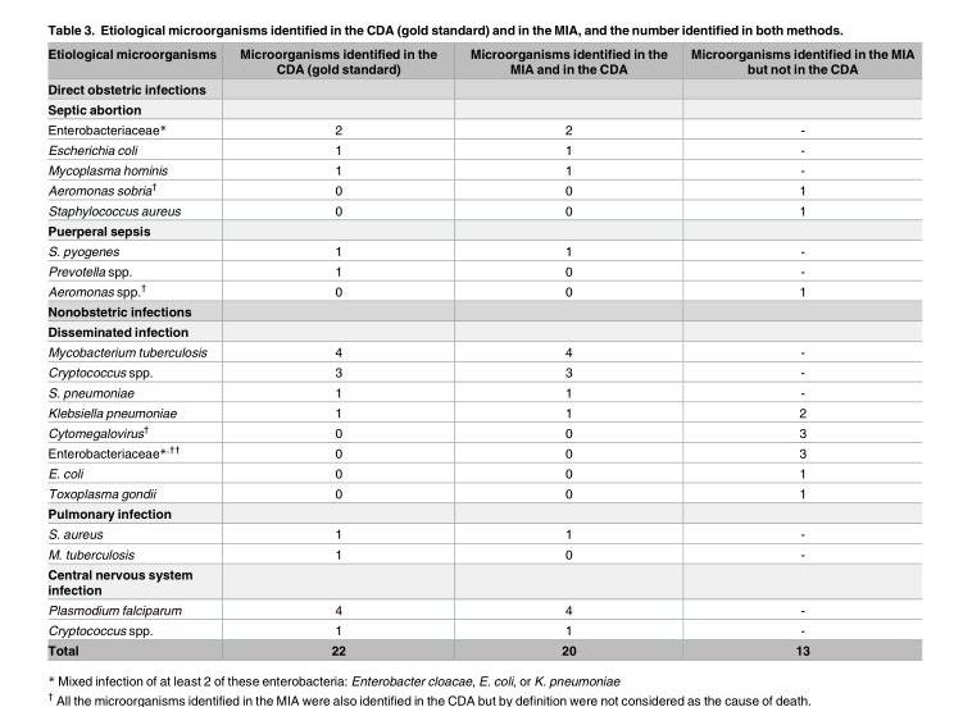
<table><thead><tr><td>Etiological microorganisms</td><td>Microorganisms identified in the CDA (gold standard)</td><td>Microorganisms identified in the MIA and in the CDA</td><td>Microorganisms identified in the MIA but not in the CDA</td></tr></thead><tbody><tr><td colspan="4">Direct obstetric infections</td></tr><tr><td colspan="4">Septic abortion</td></tr><tr><td>Enterobacteriaceae*</td><td>2</td><td>2</td><td>-</td></tr><tr><td>Escherichia coli</td><td>1</td><td>1</td><td>-</td></tr><tr><td>Mycoplasma hominis</td><td>1</td><td>1</td><td>-</td></tr><tr><td>Aeromonas sobria<sup>†</sup></td><td>0</td><td>0</td><td>1</td></tr><tr><td>Staphylococcus aureus</td><td>0</td><td>0</td><td>1</td></tr><tr><td colspan="4">Puerperal sepsis</td></tr><tr><td>S. pyogenes</td><td>1</td><td>1</td><td>-</td></tr><tr><td>Prevotella spp.</td><td>1</td><td>0</td><td>-</td></tr><tr><td>Aeromonas spp.<sup>†</sup></td><td>0</td><td>0</td><td>1</td></tr><tr><td colspan="4">Nonobstetric infections</td></tr><tr><td colspan="4">Disseminated infection</td></tr><tr><td>Mycobacterium tuberculosis</td><td>4</td><td>4</td><td>-</td></tr><tr><td>Cryptococcus spp.</td><td>3</td><td>3</td><td>-</td></tr><tr><td>S. pneumoniae</td><td>1</td><td>1</td><td>-</td></tr><tr><td>Klebsiella pneumoniae</td><td>1</td><td>1</td><td>2</td></tr><tr><td>Cytomegalovirus<sup>†</sup></td><td>0</td><td>0</td><td>3</td></tr><tr><td>Enterobacteriaceae*<sup>,††</sup></td><td>0</td><td>0</td><td>3</td></tr><tr><td>E. coli</td><td>0</td><td>0</td><td>1</td></tr><tr><td>Toxoplasma gondii</td><td>0</td><td>0</td><td>1</td></tr><tr><td colspan="4">Pulmonary infection</td></tr><tr><td>S. aureus</td><td>1</td><td>1</td><td>-</td></tr><tr><td>M. tuberculosis</td><td>1</td><td>0</td><td>-</td></tr><tr><td colspan="4">Central nervous system infection</td></tr><tr><td>Plasmodium falciparum</td><td>4</td><td>4</td><td>-</td></tr><tr><td>Cryptococcus spp.</td><td>1</td><td>1</td><td>-</td></tr><tr><td>Total</td><td>22</td><td>20</td><td>13</td></tr></tbody></table>